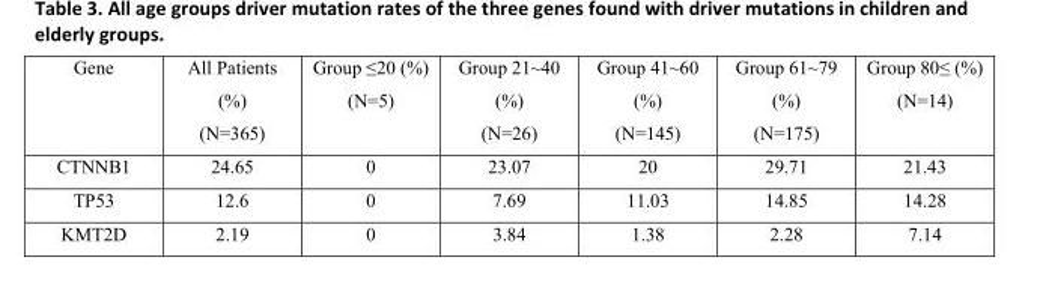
<table><tbody><tr><td>Gene</td><td>All Patients (%) (N=365)</td><td>Group ≤20 (%) (N=5)</td><td>Group 21~40 (%) (N=26)</td><td>Group 41~60 (%) (N=145)</td><td>Group 61~79 (%) (N=175)</td><td>Group 80≤ (%) (N=14)</td></tr><tr><td>CTNNB1</td><td>24.65</td><td>0</td><td>23.07</td><td>20</td><td>29.71</td><td>21.43</td></tr><tr><td>TP53</td><td>12.6</td><td>0</td><td>7.69</td><td>11.03</td><td>14.85</td><td>14.28</td></tr><tr><td>KMT2D</td><td>2.19</td><td>0</td><td>3.84</td><td>1.38</td><td>2.28</td><td>7.14</td></tr></tbody></table>